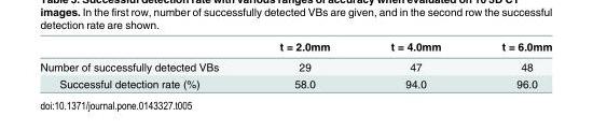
<table><thead><tr><td></td><td>t = 2.0mm</td><td>t = 4.0mm</td><td>t = 6.0mm</td></tr></thead><tbody><tr><td>Number of successfully detected VBs</td><td>29</td><td>47</td><td>48</td></tr><tr><td>Successful detection rate (%)</td><td>58.0</td><td>94.0</td><td>96.0</td></tr></tbody></table>